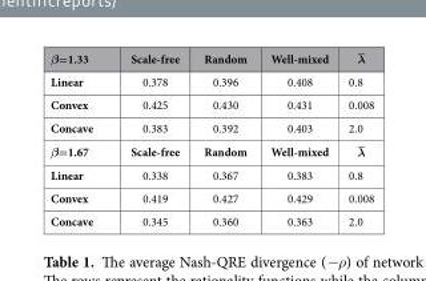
<table><thead><tr><td>β=1.33</td><td>Scale-free</td><td>Random</td><td>Well-mixed</td><td>λ</td></tr></thead><tbody><tr><td>Linear</td><td>0.378</td><td>0.396</td><td>0.408</td><td>0.8</td></tr><tr><td>Convex</td><td>0.425</td><td>0.430</td><td>0.431</td><td>0.008</td></tr><tr><td>Concave</td><td>0.383</td><td>0.392</td><td>0.403</td><td>2.0</td></tr><tr><td>β=1.67</td><td>Scale-free</td><td>Random</td><td>Well-mixed</td><td>λ</td></tr><tr><td>Linear</td><td>0.338</td><td>0.367</td><td>0.383</td><td>0.8</td></tr><tr><td>Convex</td><td>0.419</td><td>0.427</td><td>0.429</td><td>0.008</td></tr><tr><td>Concave</td><td>0.345</td><td>0.360</td><td>0.363</td><td>2.0</td></tr></tbody></table>